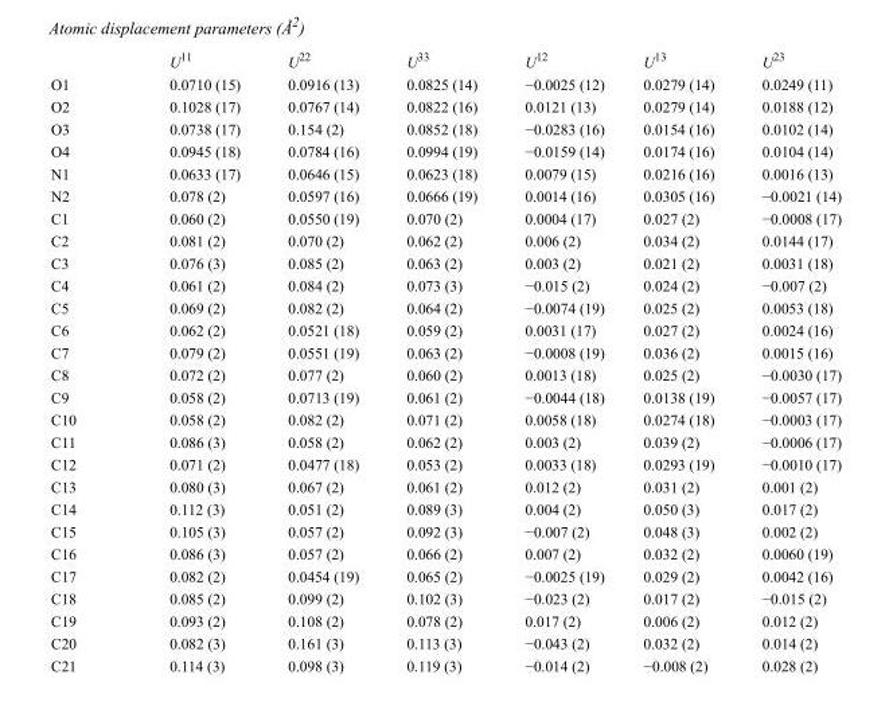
<table><thead><tr><td></td><td>U<sup>11</sup></td><td>U<sup>22</sup></td><td>U<sup>33</sup></td><td>U<sup>12</sup></td><td>U<sup>13</sup></td><td>U<sup>23</sup></td></tr></thead><tbody><tr><td>O1</td><td>0.0710 (15)</td><td>0.0916 (13)</td><td>0.0825 (14)</td><td>−0.0025 (12)</td><td>0.0279 (14)</td><td>0.0249 (11)</td></tr><tr><td>O2</td><td>0.1028 (17)</td><td>0.0767 (14)</td><td>0.0822 (16)</td><td>0.0121 (13)</td><td>0.0279 (14)</td><td>0.0188 (12)</td></tr><tr><td>O3</td><td>0.0738 (17)</td><td>0.154 (2)</td><td>0.0852 (18)</td><td>−0.0283 (16)</td><td>0.0154 (16)</td><td>0.0102 (14)</td></tr><tr><td>O4</td><td>0.0945 (18)</td><td>0.0784 (16)</td><td>0.0994 (19)</td><td>−0.0159 (14)</td><td>0.0174 (16)</td><td>0.0104 (14)</td></tr><tr><td>N1</td><td>0.0633 (17)</td><td>0.0646 (15)</td><td>0.0623 (18)</td><td>0.0079 (15)</td><td>0.0216 (16)</td><td>0.0016 (13)</td></tr><tr><td>N2</td><td>0.078 (2)</td><td>0.0597 (16)</td><td>0.0666 (19)</td><td>0.0014 (16)</td><td>0.0305 (16)</td><td>−0.0021 (14)</td></tr><tr><td>C1</td><td>0.060 (2)</td><td>0.0550 (19)</td><td>0.070 (2)</td><td>0.0004 (17)</td><td>0.027 (2)</td><td>−0.0008 (17)</td></tr><tr><td>C2</td><td>0.081 (2)</td><td>0.070 (2)</td><td>0.062 (2)</td><td>0.006 (2)</td><td>0.034 (2)</td><td>0.0144 (17)</td></tr><tr><td>C3</td><td>0.076 (3)</td><td>0.085 (2)</td><td>0.063 (2)</td><td>0.003 (2)</td><td>0.021 (2)</td><td>0.0031 (18)</td></tr><tr><td>C4</td><td>0.061 (2)</td><td>0.084 (2)</td><td>0.073 (3)</td><td>−0.015 (2)</td><td>0.024 (2)</td><td>−0.007 (2)</td></tr><tr><td>C5</td><td>0.069 (2)</td><td>0.082 (2)</td><td>0.064 (2)</td><td>−0.0074 (19)</td><td>0.025 (2)</td><td>0.0053 (18)</td></tr><tr><td>C6</td><td>0.062 (2)</td><td>0.0521 (18)</td><td>0.059 (2)</td><td>0.0031 (17)</td><td>0.027 (2)</td><td>0.0024 (16)</td></tr><tr><td>C7</td><td>0.079 (2)</td><td>0.0551 (19)</td><td>0.063 (2)</td><td>−0.0008 (19)</td><td>0.036 (2)</td><td>0.0015 (16)</td></tr><tr><td>C8</td><td>0.072 (2)</td><td>0.077 (2)</td><td>0.060 (2)</td><td>0.0013 (18)</td><td>0.025 (2)</td><td>−0.0030 (17)</td></tr><tr><td>C9</td><td>0.058 (2)</td><td>0.0713 (19)</td><td>0.061 (2)</td><td>−0.0044 (18)</td><td>0.0138 (19)</td><td>−0.0057 (17)</td></tr><tr><td>C10</td><td>0.058 (2)</td><td>0.082 (2)</td><td>0.071 (2)</td><td>0.0058 (18)</td><td>0.0274 (18)</td><td>−0.0003 (17)</td></tr><tr><td>C11</td><td>0.086 (3)</td><td>0.058 (2)</td><td>0.062 (2)</td><td>0.003 (2)</td><td>0.039 (2)</td><td>−0.0006 (17)</td></tr><tr><td>C12</td><td>0.071 (2)</td><td>0.0477 (18)</td><td>0.053 (2)</td><td>0.0033 (18)</td><td>0.0293 (19)</td><td>−0.0010 (17)</td></tr><tr><td>C13</td><td>0.080 (3)</td><td>0.067 (2)</td><td>0.061 (2)</td><td>0.012 (2)</td><td>0.031 (2)</td><td>0.001 (2)</td></tr><tr><td>C14</td><td>0.112 (3)</td><td>0.051 (2)</td><td>0.089 (3)</td><td>0.004 (2)</td><td>0.050 (3)</td><td>0.017 (2)</td></tr><tr><td>C15</td><td>0.105 (3)</td><td>0.057 (2)</td><td>0.092 (3)</td><td>−0.007 (2)</td><td>0.048 (3)</td><td>0.002 (2)</td></tr><tr><td>C16</td><td>0.086 (3)</td><td>0.057 (2)</td><td>0.066 (2)</td><td>0.007 (2)</td><td>0.032 (2)</td><td>0.0060 (19)</td></tr><tr><td>C17</td><td>0.082 (2)</td><td>0.0454 (19)</td><td>0.065 (2)</td><td>−0.0025 (19)</td><td>0.029 (2)</td><td>0.0042 (16)</td></tr><tr><td>C18</td><td>0.085 (2)</td><td>0.099 (2)</td><td>0.102 (3)</td><td>−0.023 (2)</td><td>0.017 (2)</td><td>−0.015 (2)</td></tr><tr><td>C19</td><td>0.093 (2)</td><td>0.108 (2)</td><td>0.078 (2)</td><td>0.017 (2)</td><td>0.006 (2)</td><td>0.012 (2)</td></tr><tr><td>C20</td><td>0.082 (3)</td><td>0.161 (3)</td><td>0.113 (3)</td><td>−0.043 (2)</td><td>0.032 (2)</td><td>0.014 (2)</td></tr><tr><td>C21</td><td>0.114 (3)</td><td>0.098 (3)</td><td>0.119 (3)</td><td>−0.014 (2)</td><td>−0.008 (2)</td><td>0.028 (2)</td></tr></tbody></table>